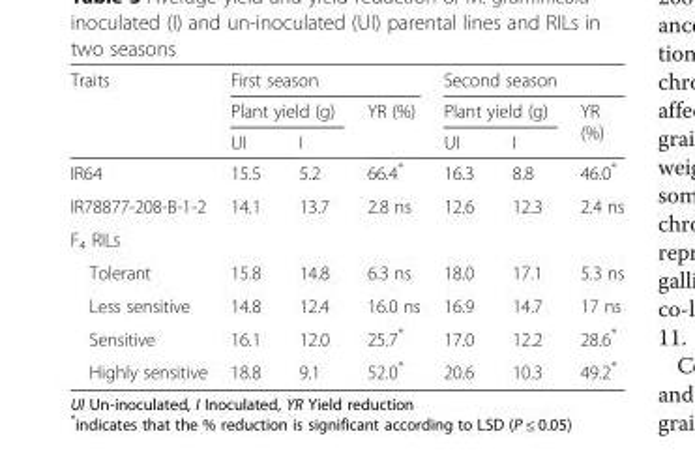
<table><thead><tr><td rowspan="3">Traits</td><td colspan="3">First season</td><td colspan="3">Second season</td></tr><tr><td colspan="2">Plant yield (g)</td><td rowspan="2">YR (%)</td><td colspan="2">Plant yield (g)</td><td rowspan="2">YR (%)</td></tr><tr><td>UI</td><td>I</td><td>UI</td><td>I</td></tr></thead><tbody><tr><td>IR64</td><td>15.5</td><td>5.2</td><td>66.4*</td><td>16.3</td><td>8.8</td><td>46.0*</td></tr><tr><td>IR78877-208-B-1-2</td><td>14.1</td><td>13.7</td><td>2.8 ns</td><td>12.6</td><td>12.3</td><td>2.4 ns</td></tr><tr><td colspan="7">F<sub>4</sub> RILs</td></tr><tr><td>Tolerant</td><td>15.8</td><td>14.8</td><td>6.3 ns</td><td>18.0</td><td>17.1</td><td>5.3 ns</td></tr><tr><td>Less sensitive</td><td>14.8</td><td>12.4</td><td>16.0 ns</td><td>16.9</td><td>14.7</td><td>17 ns</td></tr><tr><td>Sensitive</td><td>16.1</td><td>12.0</td><td>25.7*</td><td>17.0</td><td>12.2</td><td>28.6*</td></tr><tr><td>Highly sensitive</td><td>18.8</td><td>9.1</td><td>52.0*</td><td>20.6</td><td>10.3</td><td>49.2*</td></tr></tbody></table>